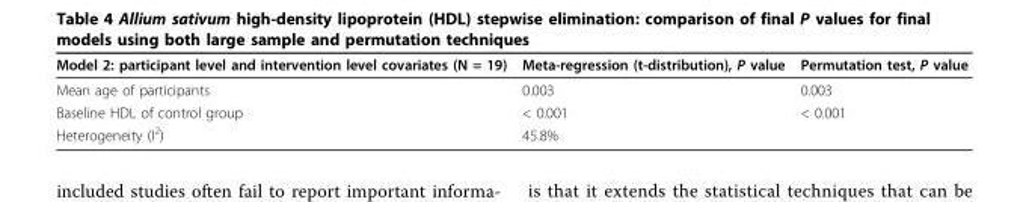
<table><thead><tr><td>Model 2: participant level and intervention level covariates (N = 19)</td><td>Meta-regression (t-distribution), P value</td><td>Permutation test, P value</td></tr></thead><tbody><tr><td>Mean age of participants</td><td>0.003</td><td>0.003</td></tr><tr><td>Baseline HDL of control group</td><td>&lt; 0.001</td><td>&lt; 0.001</td></tr><tr><td>Heterogeneity (I<sup>2</sup>)</td><td>45.8%</td><td></td></tr></tbody></table>